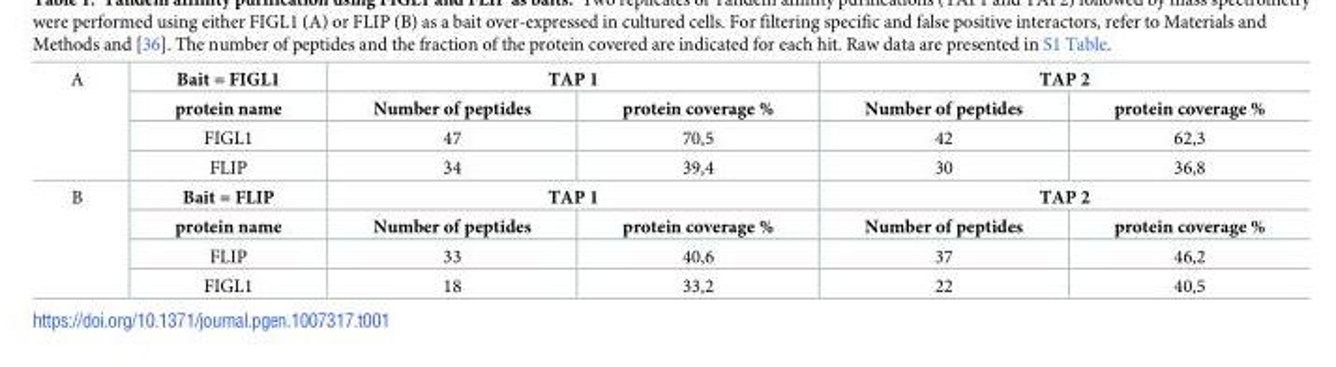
<table><tbody><tr><td rowspan="4">A</td><td>Bait = FIGL1</td><td colspan="2">TAP 1</td><td colspan="2">TAP 2</td></tr><tr><td>protein name</td><td>Number of peptides</td><td>protein coverage %</td><td>Number of peptides</td><td>protein coverage %</td></tr><tr><td>FIGL1</td><td>47</td><td>70,5</td><td>42</td><td>62,3</td></tr><tr><td>FLIP</td><td>34</td><td>39,4</td><td>30</td><td>36,8</td></tr><tr><td rowspan="4">B</td><td>Bait = FLIP</td><td colspan="2">TAP 1</td><td colspan="2">TAP 2</td></tr><tr><td>protein name</td><td>Number of peptides</td><td>protein coverage %</td><td>Number of peptides</td><td>protein coverage %</td></tr><tr><td>FLIP</td><td>33</td><td>40,6</td><td>37</td><td>46,2</td></tr><tr><td>FIGL1</td><td>18</td><td>33,2</td><td>22</td><td>40,5</td></tr></tbody></table>